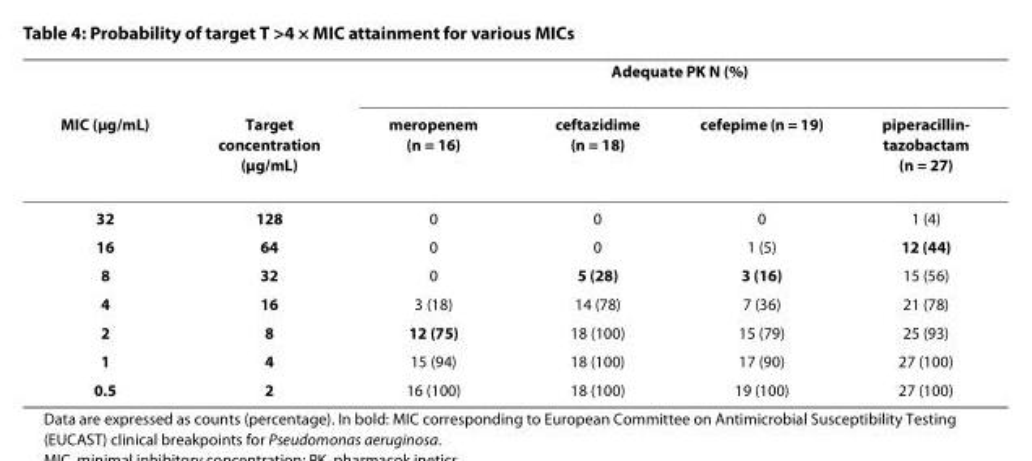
<table><thead><tr><td rowspan="2">MIC (μg/mL)</td><td rowspan="2">Target concentration (μg/mL)</td><td colspan="4">Adequate PK N (%)</td></tr><tr><td>meropenem (n = 16)</td><td>ceftazidime (n = 18)</td><td>cefepime (n = 19)</td><td>piperacillin- tazobactam (n = 27)</td></tr></thead><tbody><tr><td>32</td><td>128</td><td>0</td><td>0</td><td>0</td><td>1 (4)</td></tr><tr><td>16</td><td>64</td><td>0</td><td>0</td><td>1 (5)</td><td>12 (44)</td></tr><tr><td>8</td><td>32</td><td>0</td><td>5 (28)</td><td>3 (16)</td><td>15 (56)</td></tr><tr><td>4</td><td>16</td><td>3 (18)</td><td>14 (78)</td><td>7 (36)</td><td>21 (78)</td></tr><tr><td>2</td><td>8</td><td>12 (75)</td><td>18 (100)</td><td>15 (79)</td><td>25 (93)</td></tr><tr><td>1</td><td>4</td><td>15 (94)</td><td>18 (100)</td><td>17 (90)</td><td>27 (100)</td></tr><tr><td>0.5</td><td>2</td><td>16 (100)</td><td>18 (100)</td><td>19 (100)</td><td>27 (100)</td></tr></tbody></table>